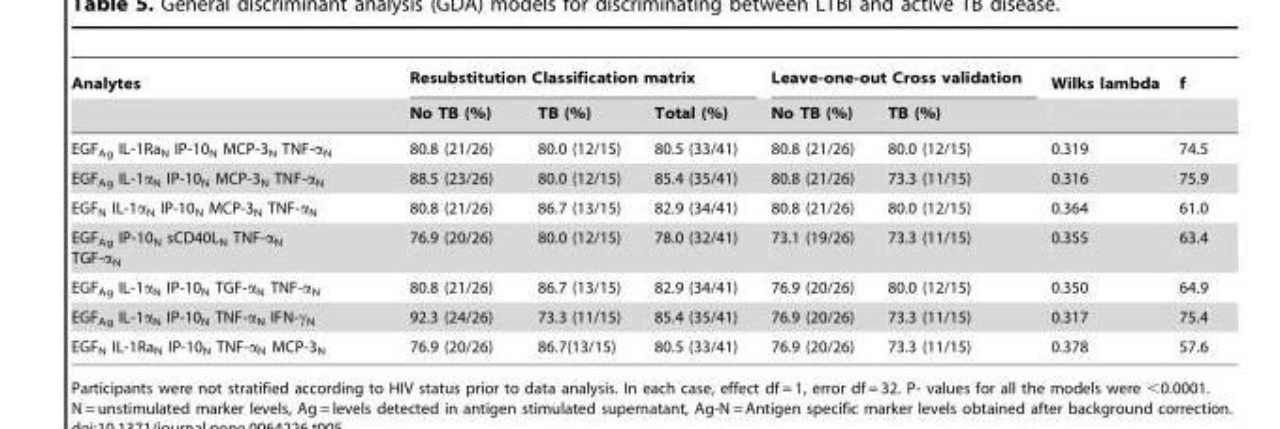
<table><thead><tr><td rowspan="2">Analytes</td><td colspan="3">Resubstitution Classification matrix</td><td colspan="2">Leave-one-out Cross validation</td><td rowspan="2">Wilks lambda</td><td rowspan="2">f</td></tr><tr><td>No TB (%)</td><td>TB (%)</td><td>Total (%)</td><td>No TB (%)</td><td>TB (%)</td></tr></thead><tbody><tr><td>EGF<sub>Ag</sub> IL-1Ra<sub>N</sub> IP-10<sub>N</sub> MCP-3<sub>N</sub> TNF-α<sub>N</sub></td><td>80.8 (21/26)</td><td>80.0 (12/15)</td><td>80.5 (33/41)</td><td>80.8 (21/26)</td><td>80.0 (12/15)</td><td>0.319</td><td>74.5</td></tr><tr><td>EGF<sub>Ag</sub> IL-1α<sub>N</sub> IP-10<sub>N</sub> MCP-3<sub>N</sub> TNF-α<sub>N</sub></td><td>88.5 (23/26)</td><td>80.0 (12/15)</td><td>85.4 (35/41)</td><td>80.8 (21/26)</td><td>73.3 (11/15)</td><td>0.316</td><td>75.9</td></tr><tr><td>EGF<sub>N</sub> IL-1α<sub>N</sub> IP-10<sub>N</sub> MCP-3<sub>N</sub> TNF-α<sub>N</sub></td><td>80.8 (21/26)</td><td>86.7 (13/15)</td><td>82.9 (34/41)</td><td>80.8 (21/26)</td><td>80.0 (12/15)</td><td>0.364</td><td>61.0</td></tr><tr><td>EGF<sub>Ag</sub> IP-10<sub>N</sub> sCD40L<sub>N</sub> TNF-α<sub>N</sub> TGF-α<sub>N</sub></td><td>76.9 (20/26)</td><td>80.0 (12/15)</td><td>78.0 (32/41)</td><td>73.1 (19/26)</td><td>73.3 (11/15)</td><td>0.355</td><td>63.4</td></tr><tr><td>EGF<sub>Ag</sub> IL-1α<sub>N</sub> IP-10<sub>N</sub> TGF-α<sub>N</sub> TNF-α<sub>N</sub></td><td>80.8 (21/26)</td><td>86.7 (13/15)</td><td>82.9 (34/41)</td><td>76.9 (20/26)</td><td>80.0 (12/15)</td><td>0.350</td><td>64.9</td></tr><tr><td>EGF<sub>Ag</sub> IL-1α<sub>N</sub> IP-10<sub>N</sub> TNF-α<sub>N</sub> IFN-γ<sub>N</sub></td><td>92.3 (24/26)</td><td>73.3 (11/15)</td><td>85.4 (35/41)</td><td>76.9 (20/26)</td><td>73.3 (11/15)</td><td>0.317</td><td>75.4</td></tr><tr><td>EGF<sub>N</sub> IL-1Ra<sub>N</sub> IP-10<sub>N</sub> TNF-α<sub>N</sub> MCP-3<sub>N</sub></td><td>76.9 (20/26)</td><td>86.7(13/15)</td><td>80.5 (33/41)</td><td>76.9 (20/26)</td><td>73.3 (11/15)</td><td>0.378</td><td>57.6</td></tr></tbody></table>